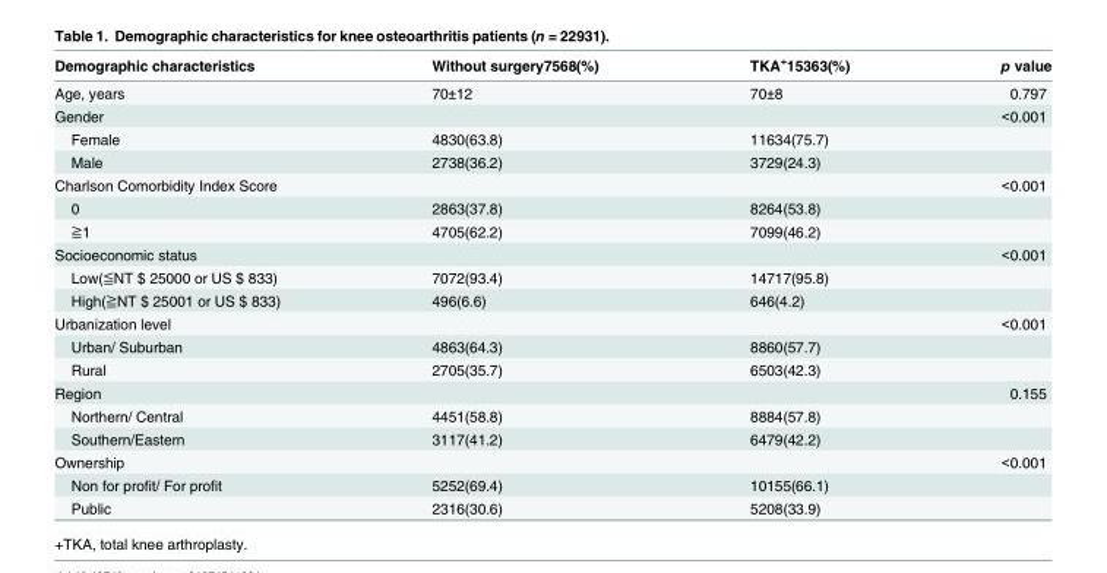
<table><thead><tr><td>Demographic characteristics</td><td>Without surgery7568(%)</td><td>TKA<sup>+</sup>15363(%)</td><td>p value</td></tr></thead><tbody><tr><td>Age, years</td><td>70±12</td><td>70±8</td><td>0.797</td></tr><tr><td>Gender</td><td></td><td></td><td>&lt;0.001</td></tr><tr><td>Female</td><td>4830(63.8)</td><td>11634(75.7)</td><td></td></tr><tr><td>Male</td><td>2738(36.2)</td><td>3729(24.3)</td><td></td></tr><tr><td>Charlson Comorbidity Index Score</td><td></td><td></td><td>&lt;0.001</td></tr><tr><td>0</td><td>2863(37.8)</td><td>8264(53.8)</td><td></td></tr><tr><td>≧1</td><td>4705(62.2)</td><td>7099(46.2)</td><td></td></tr><tr><td>Socioeconomic status</td><td></td><td></td><td>&lt;0.001</td></tr><tr><td>Low(≦NT $ 25000 or US $ 833)</td><td>7072(93.4)</td><td>14717(95.8)</td><td></td></tr><tr><td>High(≧NT $ 25001 or US $ 833)</td><td>496(6.6)</td><td>646(4.2)</td><td></td></tr><tr><td>Urbanization level</td><td></td><td></td><td>&lt;0.001</td></tr><tr><td>Urban/ Suburban</td><td>4863(64.3)</td><td>8860(57.7)</td><td></td></tr><tr><td>Rural</td><td>2705(35.7)</td><td>6503(42.3)</td><td></td></tr><tr><td>Region</td><td></td><td></td><td>0.155</td></tr><tr><td>Northern/ Central</td><td>4451(58.8)</td><td>8884(57.8)</td><td></td></tr><tr><td>Southern/Eastern</td><td>3117(41.2)</td><td>6479(42.2)</td><td></td></tr><tr><td>Ownership</td><td></td><td></td><td>&lt;0.001</td></tr><tr><td>Non for profit/ For profit</td><td>5252(69.4)</td><td>10155(66.1)</td><td></td></tr><tr><td>Public</td><td>2316(30.6)</td><td>5208(33.9)</td><td></td></tr></tbody></table>